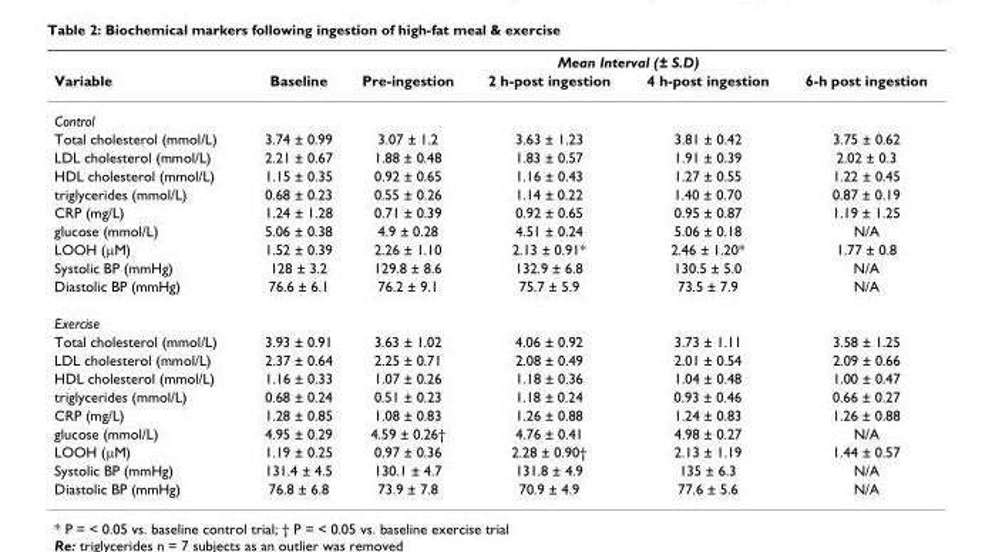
<table><thead><tr><td rowspan="2">Variable</td><td rowspan="2">Baseline</td><td rowspan="2">Pre-ingestion</td><td colspan="2">Mean Interval (± S.D)</td><td rowspan="2">6-h post ingestion</td></tr><tr><td>2 h-post ingestion</td><td>4 h-post ingestion</td></tr></thead><tbody><tr><td colspan="6">Control</td></tr><tr><td>Total cholesterol (mmol/L)</td><td>3.74 ± 0.99</td><td>3.07 ± 1.2</td><td>3.63 ± 1.23</td><td>3.81 ± 0.42</td><td>3.75 ± 0.62</td></tr><tr><td>LDL cholesterol (mmol/L)</td><td>2.21 ± 0.67</td><td>1.88 ± 0.48</td><td>1.83 ± 0.57</td><td>1.91 ± 0.39</td><td>2.02 ± 0.3</td></tr><tr><td>HDL cholesterol (mmol/L)</td><td>1.15 ± 0.35</td><td>0.92 ± 0.65</td><td>1.16 ± 0.43</td><td>1.27 ± 0.55</td><td>1.22 ± 0.45</td></tr><tr><td>triglycerides (mmol/L)</td><td>0.68 ± 0.23</td><td>0.55 ± 0.26</td><td>1.14 ± 0.22</td><td>1.40 ± 0.70</td><td>0.87 ± 0.19</td></tr><tr><td>CRP (mg/L)</td><td>1.24 ± 1.28</td><td>0.71 ± 0.39</td><td>0.92 ± 0.65</td><td>0.95 ± 0.87</td><td>1.19 ± 1.25</td></tr><tr><td>glucose (mmol/L)</td><td>5.06 ± 0.38</td><td>4.9 ± 0.28</td><td>4.51 ± 0.24</td><td>5.06 ± 0.18</td><td>N/A</td></tr><tr><td>LOOH (µM)</td><td>1.52 ± 0.39</td><td>2.26 ± 1.10</td><td>2.13 ± 0.91*</td><td>2.46 ± 1.20*</td><td>1.77 ± 0.8</td></tr><tr><td>Systolic BP (mmHg)</td><td>128 ± 3.2</td><td>129.8 ± 8.6</td><td>132.9 ± 6.8</td><td>130.5 ± 5.0</td><td>N/A</td></tr><tr><td>Diastolic BP (mmHg)</td><td>76.6 ± 6.1</td><td>76.2 ± 9.1</td><td>75.7 ± 5.9</td><td>73.5 ± 7.9</td><td>N/A</td></tr><tr><td colspan="6">Exercise</td></tr><tr><td>Total cholesterol (mmol/L)</td><td>3.93 ± 0.91</td><td>3.63 ± 1.02</td><td>4.06 ± 0.92</td><td>3.73 ± 1.11</td><td>3.58 ± 1.25</td></tr><tr><td>LDL cholesterol (mmol/L)</td><td>2.37 ± 0.64</td><td>2.25 ± 0.71</td><td>2.08 ± 0.49</td><td>2.01 ± 0.54</td><td>2.09 ± 0.66</td></tr><tr><td>HDL cholesterol (mmol/L)</td><td>1.16 ± 0.33</td><td>1.07 ± 0.26</td><td>1.18 ± 0.36</td><td>1.04 ± 0.48</td><td>1.00 ± 0.47</td></tr><tr><td>triglycerides (mmol/L)</td><td>0.68 ± 0.24</td><td>0.51 ± 0.23</td><td>1.18 ± 0.24</td><td>0.93 ± 0.46</td><td>0.66 ± 0.27</td></tr><tr><td>CRP (mg/L)</td><td>1.28 ± 0.85</td><td>1.08 ± 0.83</td><td>1.26 ± 0.88</td><td>1.24 ± 0.83</td><td>1.26 ± 0.88</td></tr><tr><td>glucose (mmol/L)</td><td>4.95 ± 0.29</td><td>4.59 ± 0.26†</td><td>4.76 ± 0.41</td><td>4.98 ± 0.27</td><td>N/A</td></tr><tr><td>LOOH (µM)</td><td>1.19 ± 0.25</td><td>0.97 ± 0.36</td><td>2.28 ± 0.90†</td><td>2.13 ± 1.19</td><td>1.44 ± 0.57</td></tr><tr><td>Systolic BP (mmHg)</td><td>131.4 ± 4.5</td><td>130.1 ± 4.7</td><td>131.8 ± 4.9</td><td>135 ± 6.3</td><td>N/A</td></tr><tr><td>Diastolic BP (mmHg)</td><td>76.8 ± 6.8</td><td>73.9 ± 7.8</td><td>70.9 ± 4.9</td><td>77.6 ± 5.6</td><td>N/A</td></tr></tbody></table>